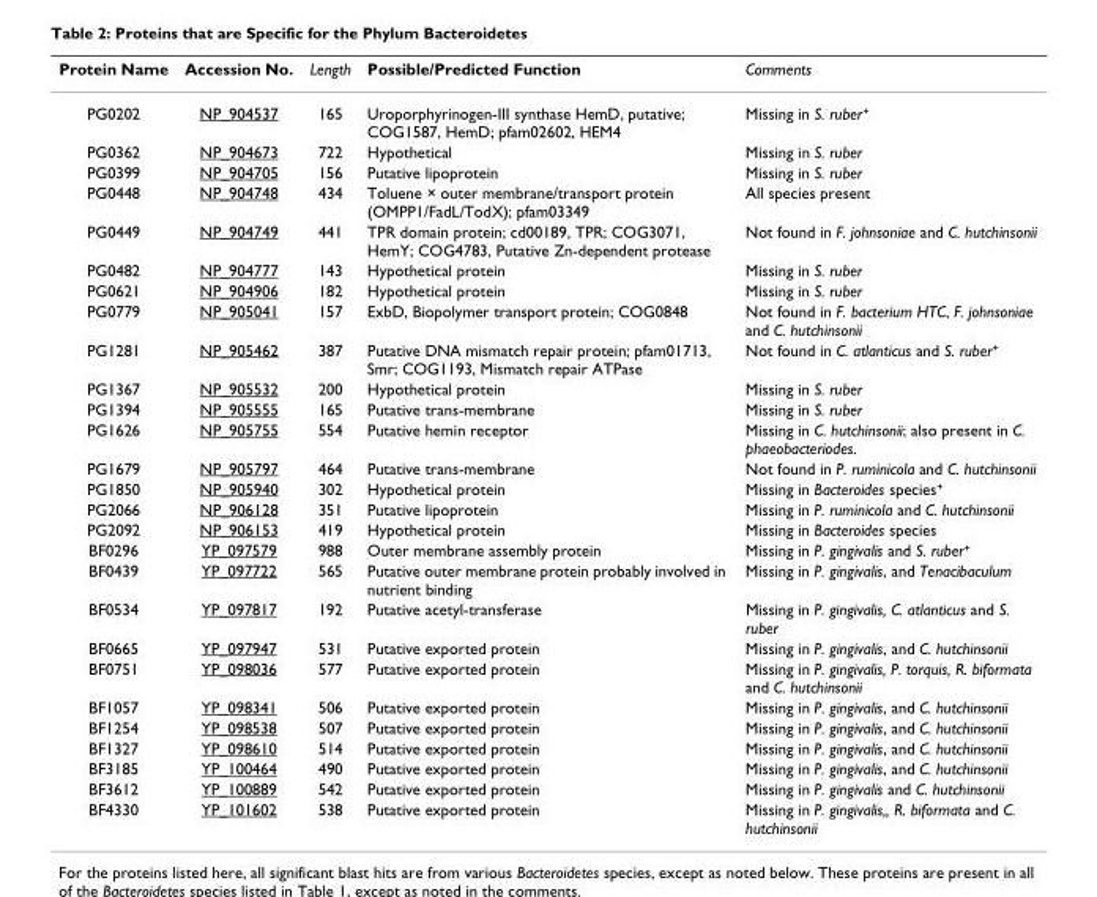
<table><thead><tr><td>Protein Name</td><td>Accession No.</td><td>Length</td><td>Possible/Predicted Function</td><td>Comments</td></tr></thead><tbody><tr><td>PG0202</td><td>NP_904537</td><td>165</td><td>Uroporphyrinogen-III synthase HemD, putative; COG1587, HemD; pfam02602, HEM4</td><td>Missing in S. ruber<sup>+</sup></td></tr><tr><td>PG0362</td><td>NP_904673</td><td>722</td><td>Hypothetical</td><td>Missing in S. ruber</td></tr><tr><td>PG0399</td><td>NP_904705</td><td>156</td><td>Putative lipoprotein</td><td>Missing in S. ruber</td></tr><tr><td>PG0448</td><td>NP_904748</td><td>434</td><td>Toluene × outer membrane/transport protein (OMPP1/FadL/TodX); pfam03349</td><td>All species present</td></tr><tr><td>PG0449</td><td>NP_904749</td><td>441</td><td>TPR domain protein; cd00189, TPR; COG3071, HemY; COG4783, Putative Zn-dependent protease</td><td>Not found in F. johnsoniae and C. hutchinsonii</td></tr><tr><td>PG0482</td><td>NP_904777</td><td>143</td><td>Hypothetical protein</td><td>Missing in S. ruber</td></tr><tr><td>PG0621</td><td>NP_904906</td><td>182</td><td>Hypothetical protein</td><td>Missing in S. ruber</td></tr><tr><td>PG0779</td><td>NP_905041</td><td>157</td><td>ExbD, Biopolymer transport protein; COG0848</td><td>Not found in F. bacterium HTC, F. johnsoniae and C. hutchinsonii</td></tr><tr><td>PG1281</td><td>NP_905462</td><td>387</td><td>Putative DNA mismatch repair protein; pfam01713, Smr; COG1193, Mismatch repair ATPase</td><td>Not found in C. atlanticus and S. ruber<sup>+</sup></td></tr><tr><td>PG1367</td><td>NP_905532</td><td>200</td><td>Hypothetical protein</td><td>Missing in S. ruber</td></tr><tr><td>PG1394</td><td>NP_905555</td><td>165</td><td>Putative trans-membrane</td><td>Missing in S. ruber</td></tr><tr><td>PG1626</td><td>NP_905755</td><td>554</td><td>Putative hemin receptor</td><td>Missing in C. hutchinsonii; also present in C. phaeobacteriodes.</td></tr><tr><td>PG1679</td><td>NP_905797</td><td>464</td><td>Putative trans-membrane</td><td>Not found in P. ruminicola and C. hutchinsonii</td></tr><tr><td>PG1850</td><td>NP_905940</td><td>302</td><td>Hypothetical protein</td><td>Missing in Bacteroides species<sup>+</sup></td></tr><tr><td>PG2066</td><td>NP_906128</td><td>351</td><td>Putative lipoprotein</td><td>Missing in P. ruminicola and C. hutchinsonii</td></tr><tr><td>PG2092</td><td>NP_906153</td><td>419</td><td>Hypothetical protein</td><td>Missing in Bacteroides species</td></tr><tr><td>BF0296</td><td>YP_097579</td><td>988</td><td>Outer membrane assembly protein</td><td>Missing in P. gingivalis and S. ruber<sup>+</sup></td></tr><tr><td>BF0439</td><td>YP_097722</td><td>565</td><td>Putative outer membrane protein probably involved in nutrient binding</td><td>Missing in P. gingivalis, and Tenacibaculum</td></tr><tr><td>BF0534</td><td>YP_097817</td><td>192</td><td>Putative acetyl-transferase</td><td>Missing in P. gingivalis, C. atlanticus and S. ruber</td></tr><tr><td>BF0665</td><td>YP_097947</td><td>531</td><td>Putative exported protein</td><td>Missing in P. gingivalis, and C. hutchinsonii</td></tr><tr><td>BF0751</td><td>YP_098036</td><td>577</td><td>Putative exported protein</td><td>Missing in P. gingivalis, P. torquis, R. biformata and C. hutchinsonii</td></tr><tr><td>BF1057</td><td>YP_098341</td><td>506</td><td>Putative exported protein</td><td>Missing in P. gingivalis, and C. hutchinsonii</td></tr><tr><td>BF1254</td><td>YP_098538</td><td>507</td><td>Putative exported protein</td><td>Missing in P. gingivalis, and C. hutchinsonii</td></tr><tr><td>BF1327</td><td>YP_098610</td><td>514</td><td>Putative exported protein</td><td>Missing in P. gingivalis, and C. hutchinsonii</td></tr><tr><td>BF3185</td><td>YP_100464</td><td>490</td><td>Putative exported protein</td><td>Missing in P. gingivalis, and C. hutchinsonii</td></tr><tr><td>BF3612</td><td>YP_100889</td><td>542</td><td>Putative exported protein</td><td>Missing in P. gingivalis and C. hutchinsonii</td></tr><tr><td>BF4330</td><td>YP_101602</td><td>538</td><td>Putative exported protein</td><td>Missing in P. gingivalis,, R. biformata and C. hutchinsonii</td></tr></tbody></table>